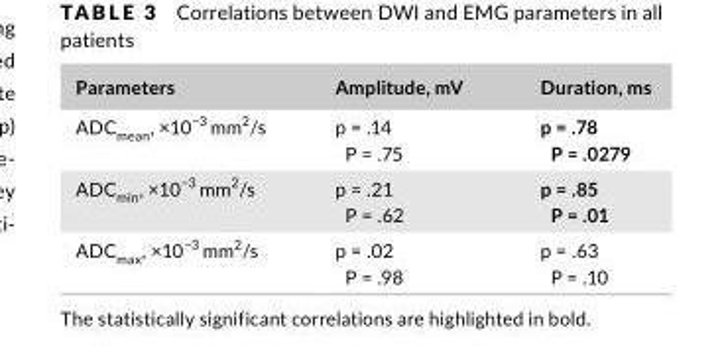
<table><thead><tr><td>Parameters</td><td>Amplitude, mV</td><td>Duration, ms</td></tr></thead><tbody><tr><td>ADC<sub>mean</sub>, ×10<sup>−3</sup> mm<sup>2</sup>/s</td><td>p = .14 P = .75</td><td>p = .78 P = .0279</td></tr><tr><td>ADC<sub>min</sub>, ×10<sup>−3</sup> mm<sup>2</sup>/s</td><td>p = .21 P = .62</td><td>p = .85 P = .01</td></tr><tr><td>ADC<sub>max</sub>, ×10<sup>−3</sup> mm<sup>2</sup>/s</td><td>p = .02 P = .98</td><td>p = .63 P = .10</td></tr></tbody></table>